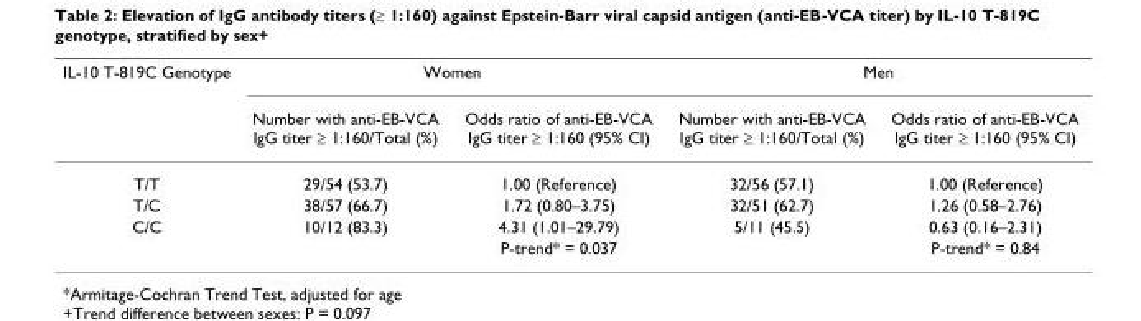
<table><thead><tr><td rowspan="2">IL-10 T-819C Genotype</td><td colspan="2">Women</td><td colspan="2">Men</td></tr><tr><td>Number with anti-EB-VCA IgG titer ≥ 1:160/Total (%)</td><td>Odds ratio of anti-EB-VCA IgG titer ≥ 1:160 (95% CI)</td><td>Number with anti-EB-VCA IgG titer ≥ 1:160/Total (%)</td><td>Odds ratio of anti-EB-VCA IgG titer ≥ 1:160 (95% CI)</td></tr></thead><tbody><tr><td>T/T</td><td>29/54 (53.7)</td><td>1.00 (Reference)</td><td>32/56 (57.1)</td><td>1.00 (Reference)</td></tr><tr><td>T/C</td><td>38/57 (66.7)</td><td>1.72 (0.80–3.75)</td><td>32/51 (62.7)</td><td>1.26 (0.58–2.76)</td></tr><tr><td rowspan="2">C/C</td><td>10/12 (83.3)</td><td>4.31 (1.01–29.79)</td><td>5/11 (45.5)</td><td>0.63 (0.16–2.31)</td></tr><tr><td></td><td>P-trend* = 0.037</td><td></td><td>P-trend* = 0.84</td></tr></tbody></table>